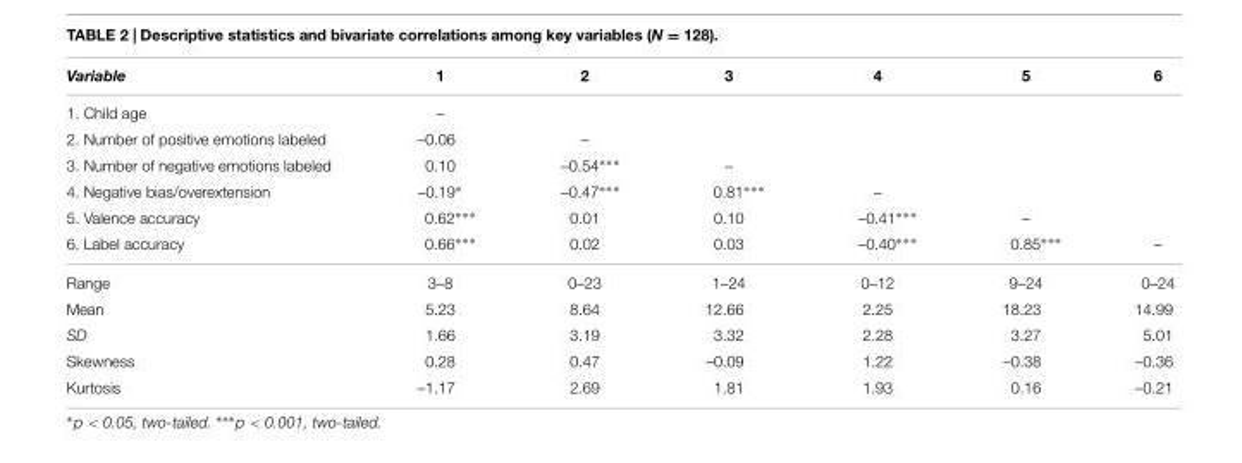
<table><thead><tr><td>Variable</td><td>1</td><td>2</td><td>3</td><td>4</td><td>5</td><td>6</td></tr></thead><tbody><tr><td>1. Child age</td><td>–</td><td></td><td></td><td></td><td></td><td></td></tr><tr><td>2. Number of positive emotions labeled</td><td>–0.06</td><td>–</td><td></td><td></td><td></td><td></td></tr><tr><td>3. Number of negative emotions labeled</td><td>0.10</td><td>–0.54∗∗∗</td><td>–</td><td></td><td></td><td></td></tr><tr><td>4. Negative bias/overextension</td><td>–0.19∗</td><td>–0.47∗∗∗</td><td>0.81∗∗∗</td><td>–</td><td></td><td></td></tr><tr><td>5. Valence accuracy</td><td>0.62∗∗∗</td><td>0.01</td><td>0.10</td><td>–0.41∗∗∗</td><td>–</td><td></td></tr><tr><td>6. Label accuracy</td><td>0.66∗∗∗</td><td>0.02</td><td>0.03</td><td>–0.40∗∗∗</td><td>0.85∗∗∗</td><td>–</td></tr><tr><td>Range</td><td>3–8</td><td>0–23</td><td>1–24</td><td>0–12</td><td>9–24</td><td>0–24</td></tr><tr><td>Mean</td><td>5.23</td><td>8.64</td><td>12.66</td><td>2.25</td><td>18.23</td><td>14.99</td></tr><tr><td>SD</td><td>1.66</td><td>3.19</td><td>3.32</td><td>2.28</td><td>3.27</td><td>5.01</td></tr><tr><td>Skewness</td><td>0.28</td><td>0.47</td><td>–0.09</td><td>1.22</td><td>–0.38</td><td>–0.36</td></tr><tr><td>Kurtosis</td><td>–1.17</td><td>2.69</td><td>1.81</td><td>1.93</td><td>0.16</td><td>–0.21</td></tr></tbody></table>